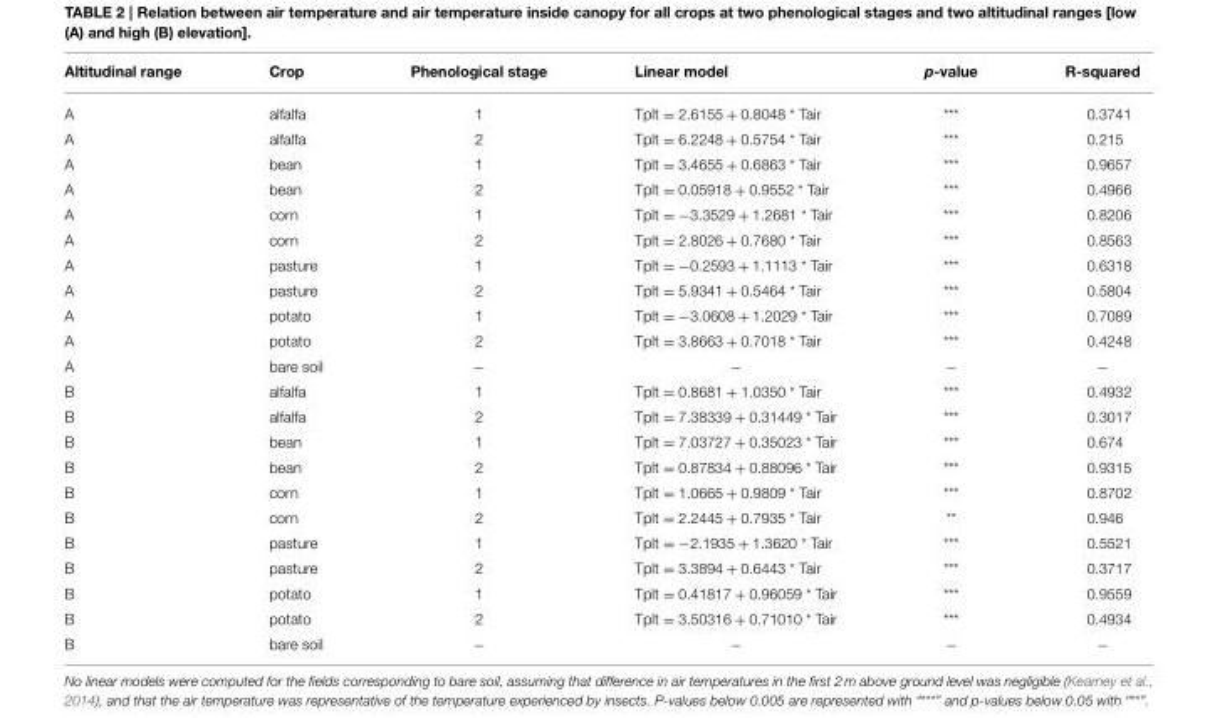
<table><thead><tr><td>Altitudinal range</td><td>Crop</td><td>Phenological stage</td><td>Linear model</td><td>p-value</td><td>R-squared</td></tr></thead><tbody><tr><td>A</td><td>alfalfa</td><td>1</td><td>Tplt = 2.6155 + 0.8048 * Tair</td><td>***</td><td>0.3741</td></tr><tr><td>A</td><td>alfalfa</td><td>2</td><td>Tplt = 6.2248 + 0.5754 * Tair</td><td>***</td><td>0.215</td></tr><tr><td>A</td><td>bean</td><td>1</td><td>Tplt = 3.4655 + 0.6863 * Tair</td><td>***</td><td>0.9657</td></tr><tr><td>A</td><td>bean</td><td>2</td><td>Tplt = 0.05918 + 0.9552 * Tair</td><td>***</td><td>0.4966</td></tr><tr><td>A</td><td>corn</td><td>1</td><td>Tplt = −3.3529 + 1.2681 * Tair</td><td>***</td><td>0.8206</td></tr><tr><td>A</td><td>corn</td><td>2</td><td>Tplt = 2.8026 + 0.7680 * Tair</td><td>***</td><td>0.8563</td></tr><tr><td>A</td><td>pasture</td><td>1</td><td>Tplt = −0.2593 + 1.1113 * Tair</td><td>***</td><td>0.6318</td></tr><tr><td>A</td><td>pasture</td><td>2</td><td>Tplt = 5.9341 + 0.5464 * Tair</td><td>***</td><td>0.5804</td></tr><tr><td>A</td><td>potato</td><td>1</td><td>Tplt = −3.0608 + 1.2029 * Tair</td><td>***</td><td>0.7089</td></tr><tr><td>A</td><td>potato</td><td>2</td><td>Tplt = 3.8663 + 0.7018 * Tair</td><td>***</td><td>0.4248</td></tr><tr><td>A</td><td>bare soil</td><td>−</td><td>−</td><td>−</td><td>−</td></tr><tr><td>B</td><td>alfalfa</td><td>1</td><td>Tplt = 0.8681 + 1.0350 * Tair</td><td>***</td><td>0.4932</td></tr><tr><td>B</td><td>alfalfa</td><td>2</td><td>Tplt = 7.38339 + 0.31449 * Tair</td><td>***</td><td>0.3017</td></tr><tr><td>B</td><td>bean</td><td>1</td><td>Tplt = 7.03727 + 0.35023 * Tair</td><td>***</td><td>0.674</td></tr><tr><td>B</td><td>bean</td><td>2</td><td>Tplt = 0.87834 + 0.88096 * Tair</td><td>***</td><td>0.9315</td></tr><tr><td>B</td><td>corn</td><td>1</td><td>Tplt = 1.0665 + 0.9809 * Tair</td><td>***</td><td>0.8702</td></tr><tr><td>B</td><td>corn</td><td>2</td><td>Tplt = 2.2445 + 0.7935 * Tair</td><td>**</td><td>0.946</td></tr><tr><td>B</td><td>pasture</td><td>1</td><td>Tplt = −2.1935 + 1.3620 * Tair</td><td>***</td><td>0.5521</td></tr><tr><td>B</td><td>pasture</td><td>2</td><td>Tplt = 3.3894 + 0.6443 * Tair</td><td>***</td><td>0.3717</td></tr><tr><td>B</td><td>potato</td><td>1</td><td>Tplt = 0.41817 + 0.96059 * Tair</td><td>***</td><td>0.9559</td></tr><tr><td>B</td><td>potato</td><td>2</td><td>Tplt = 3.50316 + 0.71010 * Tair</td><td>***</td><td>0.4934</td></tr><tr><td>B</td><td>bare soil</td><td>−</td><td>−</td><td>−</td><td>−</td></tr></tbody></table>